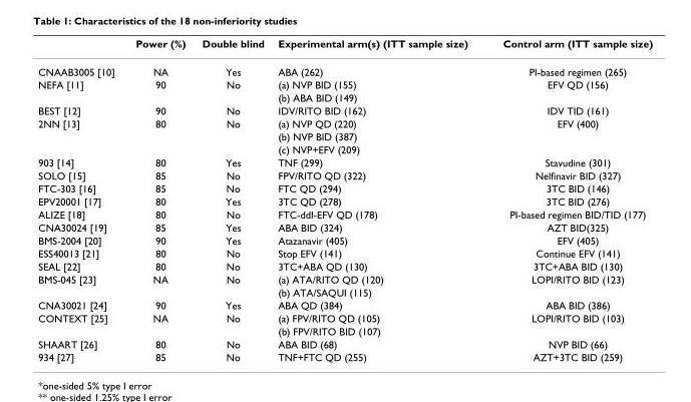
<table><thead><tr><td></td><td>Power (%)</td><td>Double blind</td><td>Experimental arm(s) (ITT sample size)</td><td>Control arm (ITT sample size)</td></tr></thead><tbody><tr><td>CNAAB3005 [10]</td><td>NA</td><td>Yes</td><td>ABA (262)</td><td>PI-based regimen (265)</td></tr><tr><td rowspan="2">NEFA [11]</td><td>90</td><td>No</td><td>(a) NVP BID (155)</td><td>EFV QD (156)</td></tr><tr><td></td><td></td><td>(b) ABA BID (149)</td><td></td></tr><tr><td>BEST [12]</td><td>90</td><td>No</td><td>IDV/RITO BID (162)</td><td>IDV TID (161)</td></tr><tr><td rowspan="3">2NN [13]</td><td>80</td><td>No</td><td>(a) NVP QD (220)</td><td>EFV (400)</td></tr><tr><td></td><td></td><td>(b) NVP BID (387)</td><td></td></tr><tr><td></td><td></td><td>(c) NVP+EFV (209)</td><td></td></tr><tr><td>903 [14]</td><td>80</td><td>Yes</td><td>TNF (299)</td><td>Stavudine (301)</td></tr><tr><td>SOLO [15]</td><td>85</td><td>No</td><td>FPV/RITO QD (322)</td><td>Nelfinavir BID (327)</td></tr><tr><td>FTC-303 [16]</td><td>85</td><td>No</td><td>FTC QD (294)</td><td>3TC BID (146)</td></tr><tr><td>EPV20001 [17]</td><td>80</td><td>Yes</td><td>3TC QD (278)</td><td>3TC BID (276)</td></tr><tr><td>ALIZE [18]</td><td>80</td><td>No</td><td>FTC-ddI-EFV QD (178)</td><td>PI-based regimen BID/TID (177)</td></tr><tr><td>CNA30024 [19]</td><td>85</td><td>Yes</td><td>ABA BID (324)</td><td>AZT BID(325)</td></tr><tr><td>BMS-2004 [20]</td><td>90</td><td>Yes</td><td>Atazanavir (405)</td><td>EFV (405)</td></tr><tr><td>ESS40013 [21]</td><td>80</td><td>No</td><td>Stop EFV (141)</td><td>Continue EFV (141)</td></tr><tr><td>SEAL [22]</td><td>80</td><td>No</td><td>3TC+ABA QD (130)</td><td>3TC+ABA BID (130)</td></tr><tr><td rowspan="2">BMS-045 [23]</td><td>NA</td><td>No</td><td>(a) ATA/RITO QD (120)</td><td>LOPI/RITO BID (123)</td></tr><tr><td></td><td></td><td>(b) ATA/SAQUI (115)</td><td></td></tr><tr><td>CNA30021 [24]</td><td>90</td><td>Yes</td><td>ABA QD (384)</td><td>ABA BID (386)</td></tr><tr><td rowspan="2">CONTEXT [25]</td><td>NA</td><td>No</td><td>(a) FPV/RITO QD (105)</td><td>LOPI/RITO BID (103)</td></tr><tr><td></td><td></td><td>(b) FPV/RITO BID (107)</td><td></td></tr><tr><td>SHAART [26]</td><td>80</td><td>No</td><td>ABA BID (68)</td><td>NVP BID (66)</td></tr><tr><td>934 [27]</td><td>85</td><td>No</td><td>TNF+FTC QD (255)</td><td>AZT+3TC BID (259)</td></tr></tbody></table>